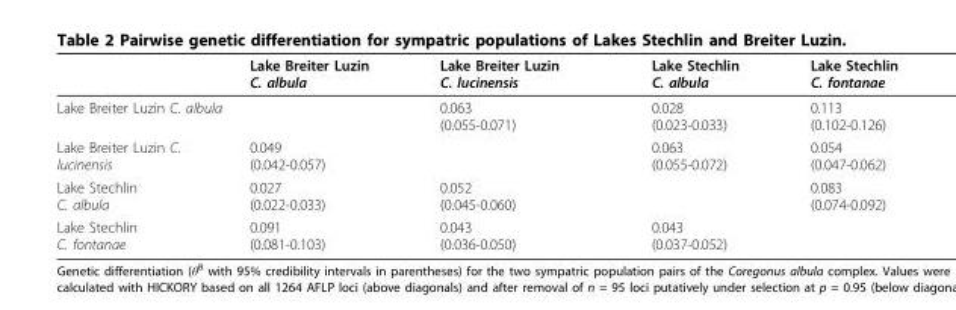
<table><thead><tr><td></td><td>Lake Breiter Luzin C. albula</td><td>Lake Breiter Luzin C. lucinensis</td><td>Lake Stechlin C. albula</td><td>Lake Stechlin C. fontanae</td></tr></thead><tbody><tr><td>Lake Breiter Luzin C. albula</td><td></td><td>0.063 (0.055-0.071)</td><td>0.028 (0.023-0.033)</td><td>0.113 (0.102-0.126)</td></tr><tr><td>Lake Breiter Luzin C. lucinensis</td><td>0.049 (0.042-0.057)</td><td></td><td>0.063 (0.055-0.072)</td><td>0.054 (0.047-0.062)</td></tr><tr><td>Lake Stechlin C. albula</td><td>0.027 (0.022-0.033)</td><td>0.052 (0.045-0.060)</td><td></td><td>0.083 (0.074-0.092)</td></tr><tr><td>Lake Stechlin C. fontanae</td><td>0.091 (0.081-0.103)</td><td>0.043 (0.036-0.050)</td><td>0.043 (0.037-0.052)</td><td></td></tr></tbody></table>